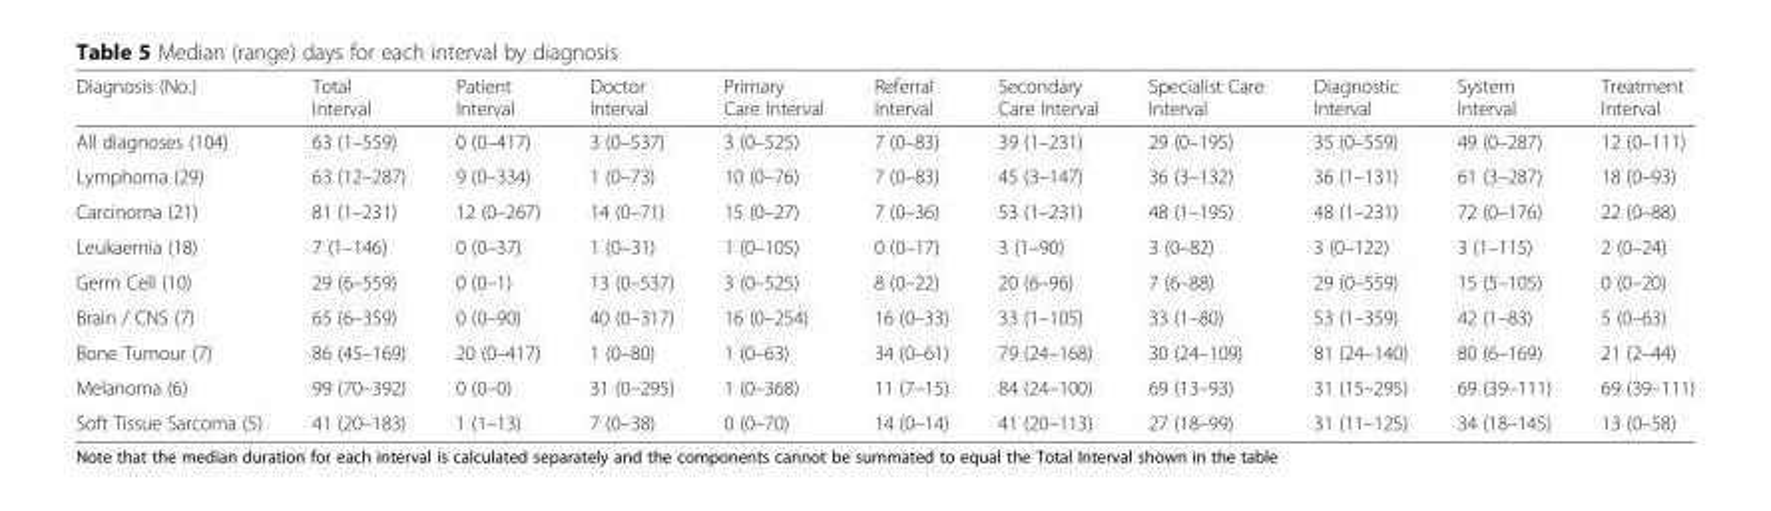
<table><thead><tr><td>Diagnosis (No.)</td><td>Total Interval</td><td>Patient Interval</td><td>Doctor Interval</td><td>Primary Care Interval</td><td>Referral Interval</td><td>Secondary Care Interval</td><td>Specialist Care Interval</td><td>Diagnostic Interval</td><td>System Interval</td><td>Treatment Interval</td></tr></thead><tbody><tr><td>All diagnoses (104)</td><td>63 (1–559)</td><td>0 (0–417)</td><td>3 (0–537)</td><td>3 (0–525)</td><td>7 (0–83)</td><td>39 (1–231)</td><td>29 (0–195)</td><td>35 (0–559)</td><td>49 (0–287)</td><td>12 (0–111)</td></tr><tr><td>Lymphoma (29)</td><td>63 (12–287)</td><td>9 (0–334)</td><td>1 (0–73)</td><td>10 (0–76)</td><td>7 (0–83)</td><td>45 (3–147)</td><td>36 (3–132)</td><td>36 (1–131)</td><td>61 (3–287)</td><td>18 (0–93)</td></tr><tr><td>Carcinoma (21)</td><td>81 (1–231)</td><td>12 (0–267)</td><td>14 (0–71)</td><td>15 (0–27)</td><td>7 (0–36)</td><td>53 (1–231)</td><td>48 (1–195)</td><td>48 (1–231)</td><td>72 (0–176)</td><td>22 (0–88)</td></tr><tr><td>Leukaemia (18)</td><td>7 (1–146)</td><td>0 (0–37)</td><td>1 (0–31)</td><td>1 (0–105)</td><td>0 (0–17)</td><td>3 (1–90)</td><td>3 (0–82)</td><td>3 (0–122)</td><td>3 (1–115)</td><td>2 (0–24)</td></tr><tr><td>Germ Cell (10)</td><td>29 (6–559)</td><td>0 (0–1)</td><td>13 (0–537)</td><td>3 (0–525)</td><td>8 (0–22)</td><td>20 (6–96)</td><td>7 (6–88)</td><td>29 (0–559)</td><td>15 (5–105)</td><td>0 (0–20)</td></tr><tr><td>Brain / CNS (7)</td><td>65 (6–359)</td><td>0 (0–90)</td><td>40 (0–317)</td><td>16 (0–254)</td><td>16 (0–33)</td><td>33 (1–105)</td><td>33 (1–80)</td><td>53 (1–359)</td><td>42 (1–83)</td><td>5 (0–63)</td></tr><tr><td>Bone Tumour (7)</td><td>86 (45–169)</td><td>20 (0–417)</td><td>1 (0–80)</td><td>1 (0–63)</td><td>34 (0–61)</td><td>79 (24–168)</td><td>30 (24–109)</td><td>81 (24–140)</td><td>80 (6–169)</td><td>21 (2–44)</td></tr><tr><td>Melanoma (6)</td><td>99 (70–392)</td><td>0 (0–0)</td><td>31 (0–295)</td><td>1 (0–368)</td><td>11 (7–15)</td><td>84 (24–100)</td><td>69 (13–93)</td><td>31 (15–295)</td><td>69 (39–111)</td><td>69 (39–111)</td></tr><tr><td>Soft Tissue Sarcoma (5)</td><td>41 (20–183)</td><td>1 (1–13)</td><td>7 (0–38)</td><td>0 (0–70)</td><td>14 (0–14)</td><td>41 (20–113)</td><td>27 (18–99)</td><td>31 (11–125)</td><td>34 (18–145)</td><td>13 (0–58)</td></tr></tbody></table>